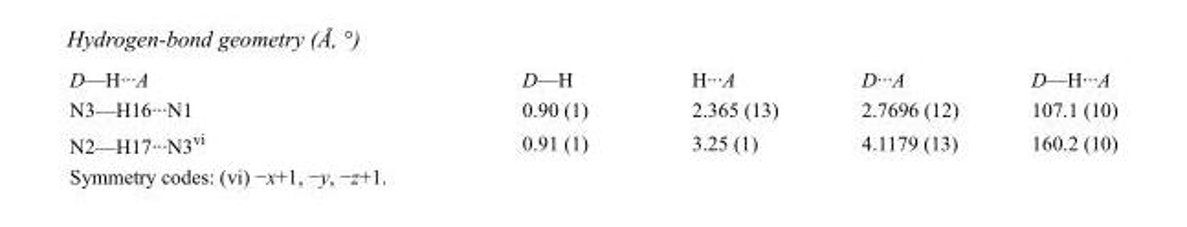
<table><tbody><tr><td>D—H···A</td><td>D—H</td><td>H···A</td><td>D···A</td><td>D—H···A</td></tr><tr><td>N3—H16···N1</td><td>0.90 (1)</td><td>2.365 (13)</td><td>2.7696 (12)</td><td>107.1 (10)</td></tr><tr><td>N2—H17···N3<sup>vi</sup></td><td>0.91 (1)</td><td>3.25 (1)</td><td>4.1179 (13)</td><td>160.2 (10)</td></tr></tbody></table>